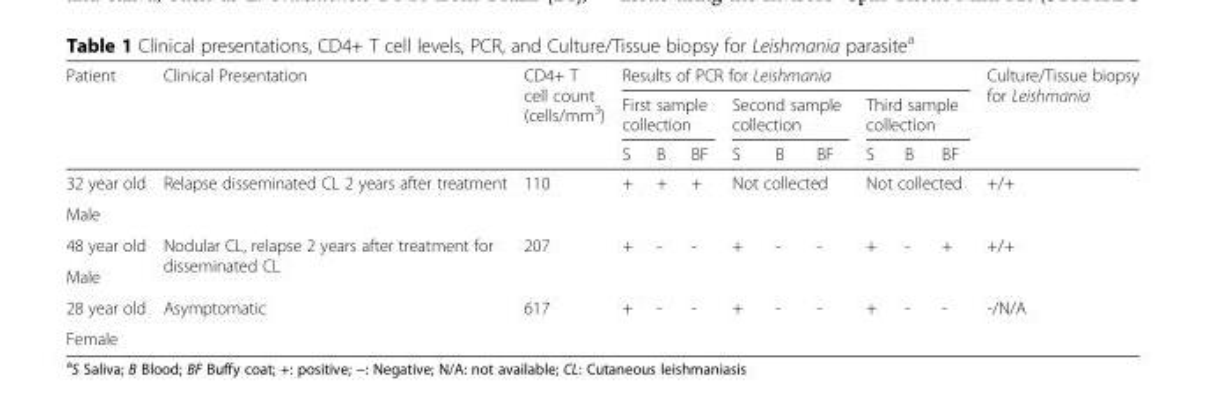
<table><thead><tr><td rowspan="3">Patient</td><td rowspan="3">Clinical Presentation</td><td rowspan="3">CD4+ T cell count (cells/mm<sup>3</sup>)</td><td colspan="9">Results of PCR for Leishmania</td><td rowspan="3">Culture/Tissue biopsy for Leishmania</td></tr><tr><td colspan="3">First sample collection</td><td colspan="3">Second sample collection</td><td colspan="3">Third sample collection</td></tr><tr><td>S</td><td>B</td><td>BF</td><td>S</td><td>B</td><td>BF</td><td>S</td><td>B</td><td>BF</td></tr></thead><tbody><tr><td>32 year old</td><td rowspan="2">Relapse disseminated CL 2 years after treatment</td><td rowspan="2">110</td><td rowspan="2">+</td><td rowspan="2">+</td><td rowspan="2">+</td><td rowspan="2" colspan="3">Not collected</td><td rowspan="2" colspan="3">Not collected</td><td rowspan="2">+/+</td></tr><tr><td>Male</td></tr><tr><td>48 year old</td><td rowspan="2">Nodular CL, relapse 2 years after treatment for disseminated CL</td><td rowspan="2">207</td><td rowspan="2">+</td><td rowspan="2">-</td><td rowspan="2">-</td><td rowspan="2">+</td><td rowspan="2">-</td><td rowspan="2">-</td><td rowspan="2">+</td><td rowspan="2">-</td><td rowspan="2">+</td><td rowspan="2">+/+</td></tr><tr><td>Male</td></tr><tr><td>28 year old</td><td rowspan="2">Asymptomatic</td><td rowspan="2">617</td><td rowspan="2">+</td><td rowspan="2">-</td><td rowspan="2">-</td><td rowspan="2">+</td><td rowspan="2">-</td><td rowspan="2">-</td><td rowspan="2">+</td><td rowspan="2">-</td><td rowspan="2">-</td><td rowspan="2">-/N/A</td></tr><tr><td>Female</td></tr></tbody></table>